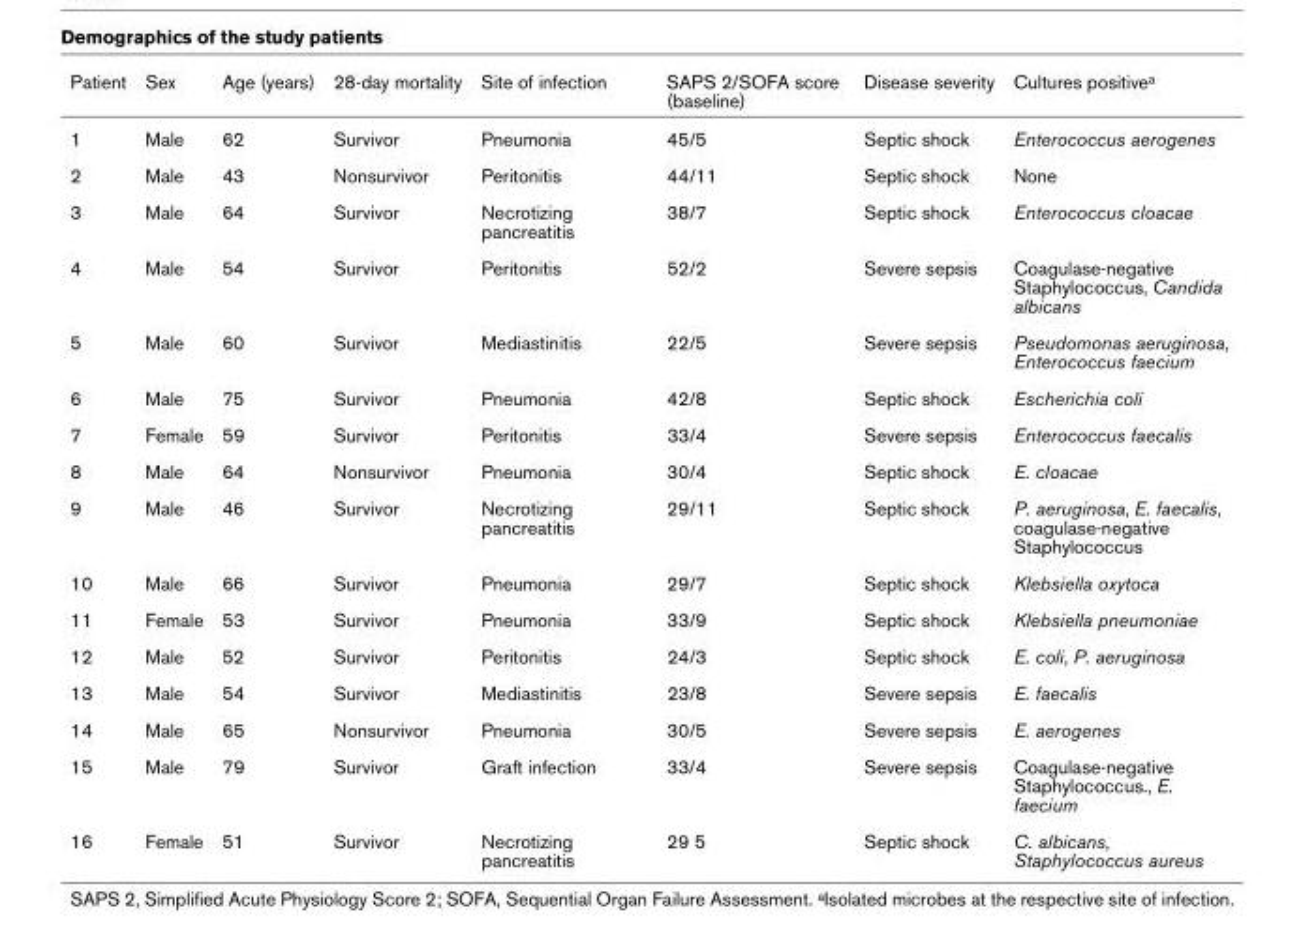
<table><thead><tr><td>Patient</td><td>Sex</td><td>Age (years)</td><td>28-day mortality</td><td>Site of infection</td><td>SAPS 2/SOFA score (baseline)</td><td>Disease severity</td><td>Cultures positive<sup>a</sup></td></tr></thead><tbody><tr><td>1</td><td>Male</td><td>62</td><td>Survivor</td><td>Pneumonia</td><td>45/5</td><td>Septic shock</td><td>Enterococcus aerogenes</td></tr><tr><td>2</td><td>Male</td><td>43</td><td>Nonsurvivor</td><td>Peritonitis</td><td>44/11</td><td>Septic shock</td><td>None</td></tr><tr><td>3</td><td>Male</td><td>64</td><td>Survivor</td><td>Necrotizing pancreatitis</td><td>38/7</td><td>Septic shock</td><td>Enterococcus cloacae</td></tr><tr><td>4</td><td>Male</td><td>54</td><td>Survivor</td><td>Peritonitis</td><td>52/2</td><td>Severe sepsis</td><td>Coagulase-negative Staphylococcus, Candida albicans</td></tr><tr><td>5</td><td>Male</td><td>60</td><td>Survivor</td><td>Mediastinitis</td><td>22/5</td><td>Severe sepsis</td><td>Pseudomonas aeruginosa, Enterococcus faecium</td></tr><tr><td>6</td><td>Male</td><td>75</td><td>Survivor</td><td>Pneumonia</td><td>42/8</td><td>Septic shock</td><td>Escherichia coli</td></tr><tr><td>7</td><td>Female</td><td>59</td><td>Survivor</td><td>Peritonitis</td><td>33/4</td><td>Severe sepsis</td><td>Enterococcus faecalis</td></tr><tr><td>8</td><td>Male</td><td>64</td><td>Nonsurvivor</td><td>Pneumonia</td><td>30/4</td><td>Septic shock</td><td>E. cloacae</td></tr><tr><td>9</td><td>Male</td><td>46</td><td>Survivor</td><td>Necrotizing pancreatitis</td><td>29/11</td><td>Septic shock</td><td>P. aeruginosa, E. faecalis, coagulase-negative Staphylococcus</td></tr><tr><td>10</td><td>Male</td><td>66</td><td>Survivor</td><td>Pneumonia</td><td>29/7</td><td>Septic shock</td><td>Klebsiella oxytoca</td></tr><tr><td>11</td><td>Female</td><td>53</td><td>Survivor</td><td>Pneumonia</td><td>33/9</td><td>Septic shock</td><td>Klebsiella pneumoniae</td></tr><tr><td>12</td><td>Male</td><td>52</td><td>Survivor</td><td>Peritonitis</td><td>24/3</td><td>Septic shock</td><td>E. coli, P. aeruginosa</td></tr><tr><td>13</td><td>Male</td><td>54</td><td>Survivor</td><td>Mediastinitis</td><td>23/8</td><td>Severe sepsis</td><td>E. faecalis</td></tr><tr><td>14</td><td>Male</td><td>65</td><td>Nonsurvivor</td><td>Pneumonia</td><td>30/5</td><td>Severe sepsis</td><td>E. aerogenes</td></tr><tr><td>15</td><td>Male</td><td>79</td><td>Survivor</td><td>Graft infection</td><td>33/4</td><td>Severe sepsis</td><td>Coagulase-negative Staphylococcus., E. faecium</td></tr><tr><td>16</td><td>Female</td><td>51</td><td>Survivor</td><td>Necrotizing pancreatitis</td><td>29 5</td><td>Septic shock</td><td>C. albicans, Staphylococcus aureus</td></tr></tbody></table>